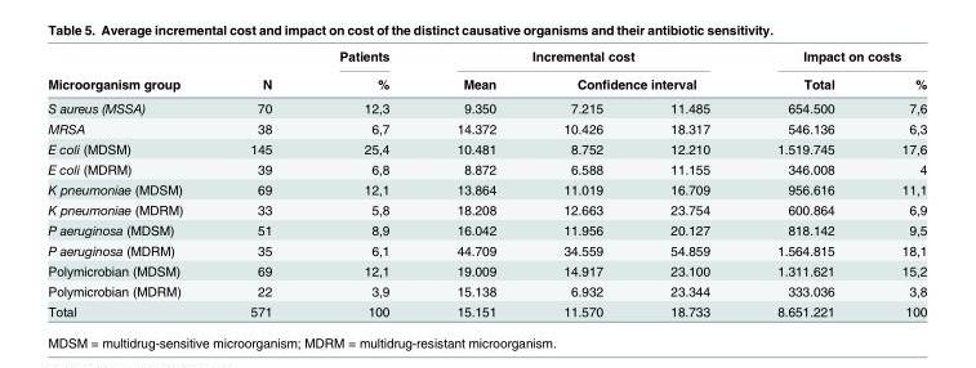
<table><thead><tr><td rowspan="3">Microorganism group S aureus (MSSA)</td><td rowspan="3">N 70</td><td rowspan="3">Patients % 12,3</td><td colspan="3">Incremental cost</td><td colspan="2">Impact on costs</td></tr><tr><td rowspan="2">Mean 9.350</td><td colspan="2">Confidence interval</td><td rowspan="2">Total 654.500</td><td rowspan="2">% 7,6</td></tr><tr><td>7.215</td><td>11.485</td></tr></thead><tbody><tr><td>MRSA</td><td>38</td><td>6,7</td><td>14.372</td><td>10.426</td><td>18.317</td><td>546.136</td><td>6,3</td></tr><tr><td>E coli (MDSM)</td><td>145</td><td>25,4</td><td>10.481</td><td>8.752</td><td>12.210</td><td>1.519.745</td><td>17,6</td></tr><tr><td>E coli (MDRM)</td><td>39</td><td>6,8</td><td>8.872</td><td>6.588</td><td>11.155</td><td>346.008</td><td>4</td></tr><tr><td>K pneumoniae (MDSM)</td><td>69</td><td>12,1</td><td>13.864</td><td>11.019</td><td>16.709</td><td>956.616</td><td>11,1</td></tr><tr><td>K pneumoniae (MDRM)</td><td>33</td><td>5,8</td><td>18.208</td><td>12.663</td><td>23.754</td><td>600.864</td><td>6,9</td></tr><tr><td>P aeruginosa (MDSM)</td><td>51</td><td>8,9</td><td>16.042</td><td>11.956</td><td>20.127</td><td>818.142</td><td>9,5</td></tr><tr><td>P aeruginosa (MDRM)</td><td>35</td><td>6,1</td><td>44.709</td><td>34.559</td><td>54.859</td><td>1.564.815</td><td>18,1</td></tr><tr><td>Polymicrobian (MDSM)</td><td>69</td><td>12,1</td><td>19.009</td><td>14.917</td><td>23.100</td><td>1.311.621</td><td>15,2</td></tr><tr><td>Polymicrobian (MDRM)</td><td>22</td><td>3,9</td><td>15.138</td><td>6.932</td><td>23.344</td><td>333.036</td><td>3,8</td></tr><tr><td>Total</td><td>571</td><td>100</td><td>15.151</td><td>11.570</td><td>18.733</td><td>8.651.221</td><td>100</td></tr></tbody></table>